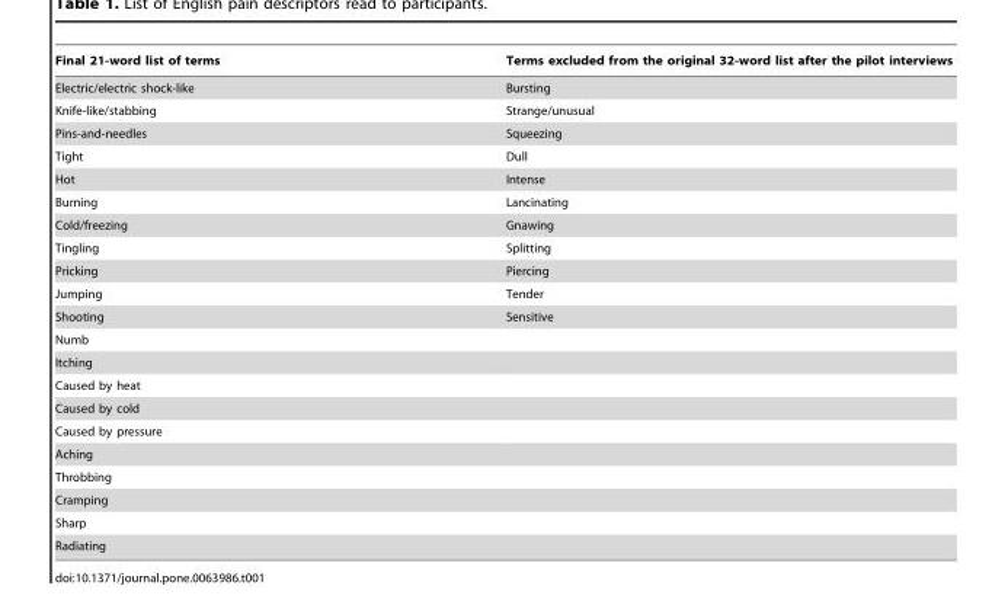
<table><thead><tr><td>Final 21-word list of terms</td><td>Terms excluded from the original 32-word list after the pilot interviews</td></tr></thead><tbody><tr><td>Electric/electric shock-like</td><td>Bursting</td></tr><tr><td>Knife-like/stabbing</td><td>Strange/unusual</td></tr><tr><td>Pins-and-needles</td><td>Squeezing</td></tr><tr><td>Tight</td><td>Dull</td></tr><tr><td>Hot</td><td>Intense</td></tr><tr><td>Burning</td><td>Lancinating</td></tr><tr><td>Cold/freezing</td><td>Gnawing</td></tr><tr><td>Tingling</td><td>Splitting</td></tr><tr><td>Pricking</td><td>Piercing</td></tr><tr><td>Jumping</td><td>Tender</td></tr><tr><td>Shooting</td><td>Sensitive</td></tr><tr><td colspan="2">Numb</td></tr><tr><td colspan="2">Itching</td></tr><tr><td colspan="2">Caused by heat</td></tr><tr><td colspan="2">Caused by cold</td></tr><tr><td colspan="2">Caused by pressure</td></tr><tr><td colspan="2">Aching</td></tr><tr><td colspan="2">Throbbing</td></tr><tr><td colspan="2">Cramping</td></tr><tr><td colspan="2">Sharp</td></tr><tr><td>Radiating</td><td></td></tr></tbody></table>